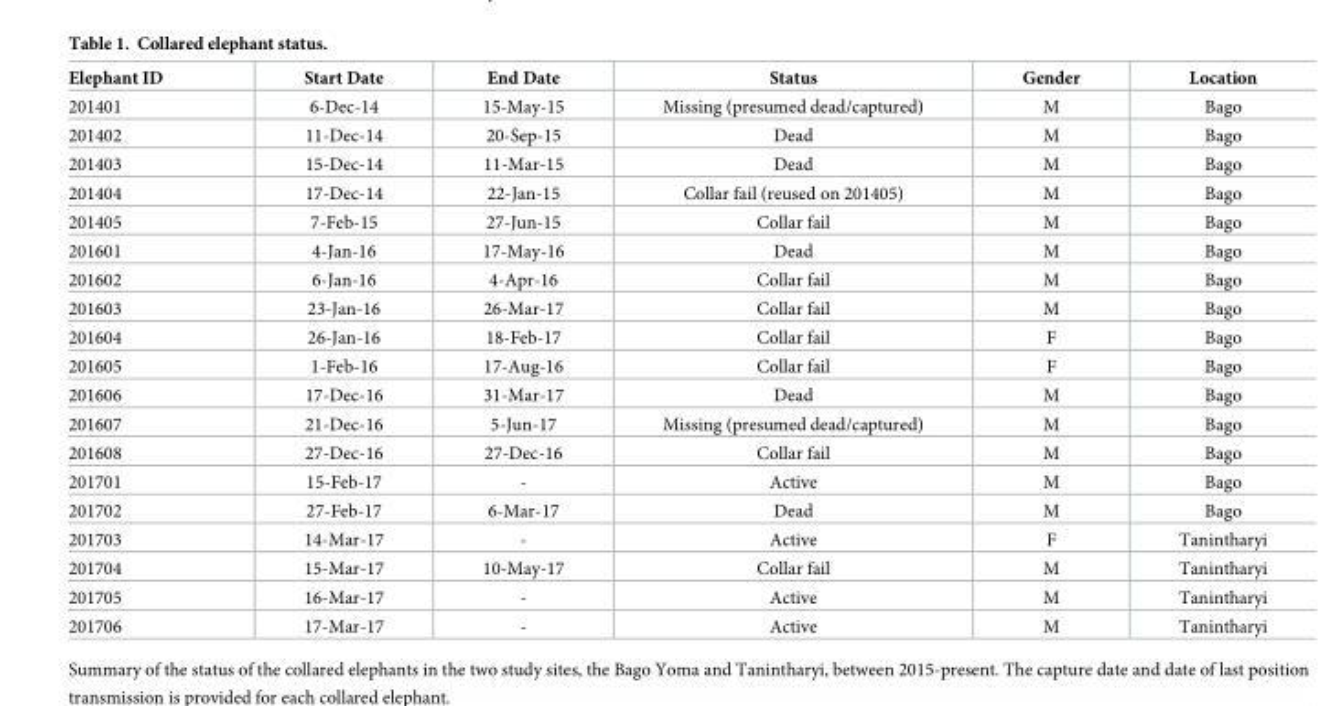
<table><thead><tr><td>Elephant ID</td><td>Start Date</td><td>End Date</td><td>Status</td><td>Gender</td><td>Location</td></tr></thead><tbody><tr><td>201401</td><td>6-Dec-14</td><td>15-May-15</td><td>Missing (presumed dead/captured)</td><td>M</td><td>Bago</td></tr><tr><td>201402</td><td>11-Dec-14</td><td>20-Sep-15</td><td>Dead</td><td>M</td><td>Bago</td></tr><tr><td>201403</td><td>15-Dec-14</td><td>11-Mar-15</td><td>Dead</td><td>M</td><td>Bago</td></tr><tr><td>201404</td><td>17-Dec-14</td><td>22-Jan-15</td><td>Collar fail (reused on 201405)</td><td>M</td><td>Bago</td></tr><tr><td>201405</td><td>7-Feb-15</td><td>27-Jun-15</td><td>Collar fail</td><td>M</td><td>Bago</td></tr><tr><td>201601</td><td>4-Jan-16</td><td>17-May-16</td><td>Dead</td><td>M</td><td>Bago</td></tr><tr><td>201602</td><td>6-Jan-16</td><td>4-Apr-16</td><td>Collar fail</td><td>M</td><td>Bago</td></tr><tr><td>201603</td><td>23-Jan-16</td><td>26-Mar-17</td><td>Collar fail</td><td>M</td><td>Bago</td></tr><tr><td>201604</td><td>26-Jan-16</td><td>18-Feb-17</td><td>Collar fail</td><td>F</td><td>Bago</td></tr><tr><td>201605</td><td>1-Feb-16</td><td>17-Aug-16</td><td>Collar fail</td><td>F</td><td>Bago</td></tr><tr><td>201606</td><td>17-Dec-16</td><td>31-Mar-17</td><td>Dead</td><td>M</td><td>Bago</td></tr><tr><td>201607</td><td>21-Dec-16</td><td>5-Jun-17</td><td>Missing (presumed dead/captured)</td><td>M</td><td>Bago</td></tr><tr><td>201608</td><td>27-Dec-16</td><td>27-Dec-16</td><td>Collar fail</td><td>M</td><td>Bago</td></tr><tr><td>201701</td><td>15-Feb-17</td><td>-</td><td>Active</td><td>M</td><td>Bago</td></tr><tr><td>201702</td><td>27-Feb-17</td><td>6-Mar-17</td><td>Dead</td><td>M</td><td>Bago</td></tr><tr><td>201703</td><td>14-Mar-17</td><td>-</td><td>Active</td><td>F</td><td>Tanintharyi</td></tr><tr><td>201704</td><td>15-Mar-17</td><td>10-May-17</td><td>Collar fail</td><td>M</td><td>Tanintharyi</td></tr><tr><td>201705</td><td>16-Mar-17</td><td>-</td><td>Active</td><td>M</td><td>Tanintharyi</td></tr><tr><td>201706</td><td>17-Mar-17</td><td>-</td><td>Active</td><td>M</td><td>Tanintharyi</td></tr></tbody></table>